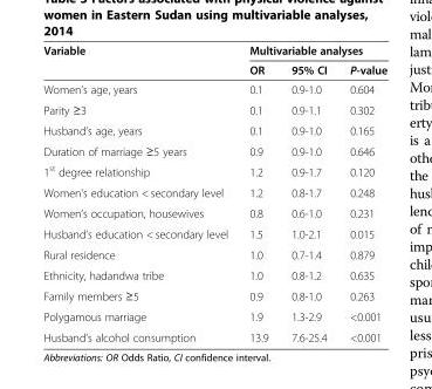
<table><thead><tr><td rowspan="2">Variable</td><td colspan="3">Multivariable analyses</td></tr><tr><td>OR</td><td>95% CI</td><td>P-value</td></tr></thead><tbody><tr><td>Women’s age, years</td><td>0.1</td><td>0.9-1.0</td><td>0.604</td></tr><tr><td>Parity ≥3</td><td>0.1</td><td>0.9-1.1</td><td>0.302</td></tr><tr><td>Husband’s age, years</td><td>0.1</td><td>0.9-1.0</td><td>0.165</td></tr><tr><td>Duration of marriage ≥5 years</td><td>0.9</td><td>0.9-1.0</td><td>0.646</td></tr><tr><td>1<sup>st</sup> degree relationship</td><td>1.2</td><td>0.9-1.7</td><td>0.120</td></tr><tr><td>Women&#x27;s education &lt; secondary level</td><td>1.2</td><td>0.8-1.7</td><td>0.248</td></tr><tr><td>Women’s occupation, housewives</td><td>0.8</td><td>0.6-1.0</td><td>0.231</td></tr><tr><td>Husband’s education &lt; secondary level</td><td>1.5</td><td>1.0-2.1</td><td>0.015</td></tr><tr><td>Rural residence</td><td>1.0</td><td>0.7-1.4</td><td>0.879</td></tr><tr><td>Ethnicity, hadandwa tribe</td><td>1.0</td><td>0.8-1.2</td><td>0.635</td></tr><tr><td>Family members ≥5</td><td>0.9</td><td>0.8-1.0</td><td>0.263</td></tr><tr><td>Polygamous marriage</td><td>1.9</td><td>1.3-2.9</td><td>&lt;0.001</td></tr><tr><td>Husband’s alcohol consumption</td><td>13.9</td><td>7.6-25.4</td><td>&lt;0.001</td></tr></tbody></table>